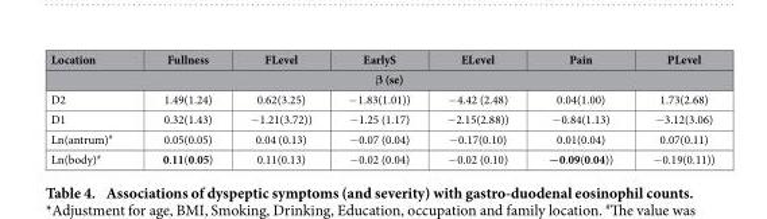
<table><thead><tr><td>Location</td><td>Fullness</td><td>FLevel</td><td>EarlyS</td><td>ELevel</td><td>Pain</td><td>PLevel</td></tr><tr><td colspan="7">β (se)</td></tr></thead><tbody><tr><td>D2</td><td>1.49(1.24)</td><td>0.62(3.25)</td><td>− 1.83(1.01))</td><td>− 4.42 (2.48)</td><td>0.04(1.00)</td><td>1.73(2.68)</td></tr><tr><td>D1</td><td>0.32(1.43)</td><td>− 1.21(3.72))</td><td>− 1.25 (1.17)</td><td>− 2.15(2.88))</td><td>− 0.84(1.13)</td><td>− 3.12(3.06)</td></tr><tr><td>Ln(antrum)<sup>#</sup></td><td>0.05(0.05)</td><td>0.04 (0.13)</td><td>− 0.07 (0.04)</td><td>− 0.17(0.10)</td><td>0.01(0.04)</td><td>0.07(0.11)</td></tr><tr><td>Ln(body)<sup>#</sup></td><td>0.11(0.05)</td><td>0.11(0.13)</td><td>− 0.02 (0.04)</td><td>− 0.02 (0.10)</td><td>−0.09(0.04))</td><td>− 0.19(0.11))</td></tr></tbody></table>